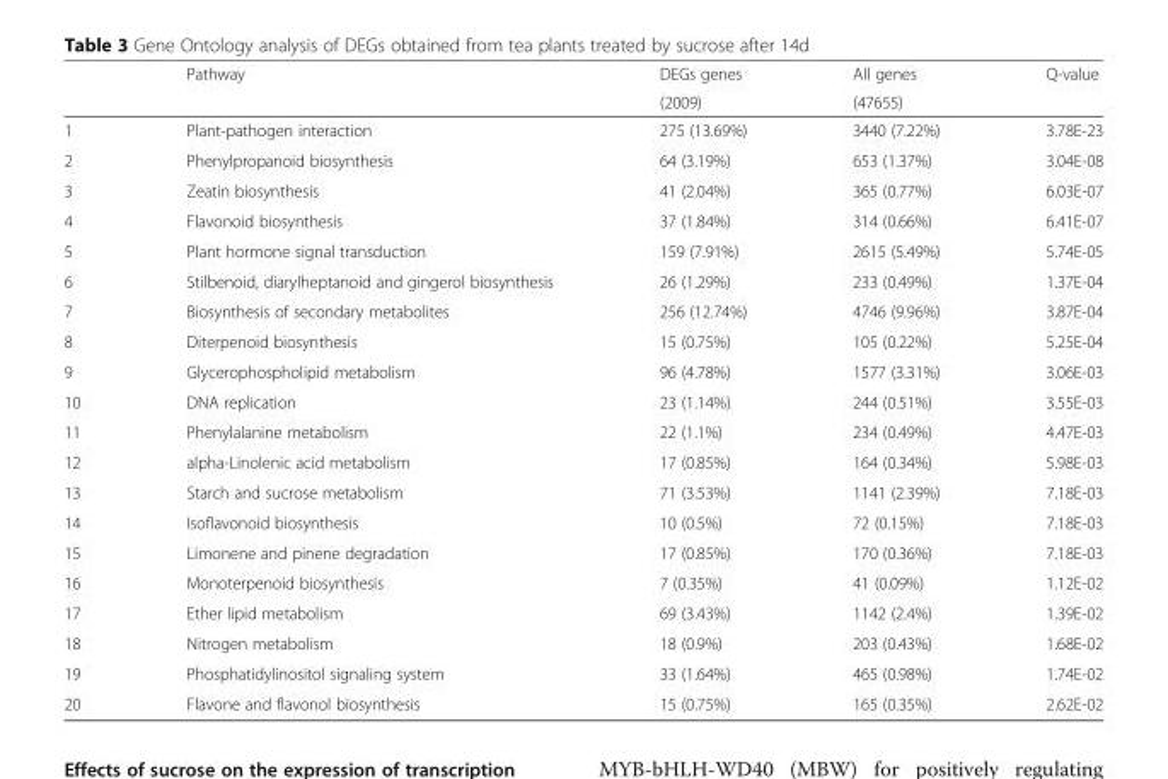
<table><thead><tr><td rowspan="2"></td><td rowspan="2">Pathway</td><td rowspan="2">DEGs genes (2009)</td><td rowspan="2">All genes (47655)</td><td rowspan="2">Q-value</td></tr><tr></tr></thead><tbody><tr><td>1</td><td>Plant-pathogen interaction</td><td>275 (13.69%)</td><td>3440 (7.22%)</td><td>3.78E-23</td></tr><tr><td>2</td><td>Phenylpropanoid biosynthesis</td><td>64 (3.19%)</td><td>653 (1.37%)</td><td>3.04E-08</td></tr><tr><td>3</td><td>Zeatin biosynthesis</td><td>41 (2.04%)</td><td>365 (0.77%)</td><td>6.03E-07</td></tr><tr><td>4</td><td>Flavonoid biosynthesis</td><td>37 (1.84%)</td><td>314 (0.66%)</td><td>6.41E-07</td></tr><tr><td>5</td><td>Plant hormone signal transduction</td><td>159 (7.91%)</td><td>2615 (5.49%)</td><td>5.74E-05</td></tr><tr><td>6</td><td>Stilbenoid, diarylheptanoid and gingerol biosynthesis</td><td>26 (1.29%)</td><td>233 (0.49%)</td><td>1.37E-04</td></tr><tr><td>7</td><td>Biosynthesis of secondary metabolites</td><td>256 (12.74%)</td><td>4746 (9.96%)</td><td>3.87E-04</td></tr><tr><td>8</td><td>Diterpenoid biosynthesis</td><td>15 (0.75%)</td><td>105 (0.22%)</td><td>5.25E-04</td></tr><tr><td>9</td><td>Glycerophospholipid metabolism</td><td>96 (4.78%)</td><td>1577 (3.31%)</td><td>3.06E-03</td></tr><tr><td>10</td><td>DNA replication</td><td>23 (1.14%)</td><td>244 (0.51%)</td><td>3.55E-03</td></tr><tr><td>11</td><td>Phenylalanine metabolism</td><td>22 (1.1%)</td><td>234 (0.49%)</td><td>4.47E-03</td></tr><tr><td>12</td><td>alpha-Linolenic acid metabolism</td><td>17 (0.85%)</td><td>164 (0.34%)</td><td>5.98E-03</td></tr><tr><td>13</td><td>Starch and sucrose metabolism</td><td>71 (3.53%)</td><td>1141 (2.39%)</td><td>7.18E-03</td></tr><tr><td>14</td><td>Isoflavonoid biosynthesis</td><td>10 (0.5%)</td><td>72 (0.15%)</td><td>7.18E-03</td></tr><tr><td>15</td><td>Limonene and pinene degradation</td><td>17 (0.85%)</td><td>170 (0.36%)</td><td>7.18E-03</td></tr><tr><td>16</td><td>Monoterpenoid biosynthesis</td><td>7 (0.35%)</td><td>41 (0.09%)</td><td>1.12E-02</td></tr><tr><td>17</td><td>Ether lipid metabolism</td><td>69 (3.43%)</td><td>1142 (2.4%)</td><td>1.39E-02</td></tr><tr><td>18</td><td>Nitrogen metabolism</td><td>18 (0.9%)</td><td>203 (0.43%)</td><td>1.68E-02</td></tr><tr><td>19</td><td>Phosphatidylinositol signaling system</td><td>33 (1.64%)</td><td>465 (0.98%)</td><td>1.74E-02</td></tr><tr><td>20</td><td>Flavone and flavonol biosynthesis</td><td>15 (0.75%)</td><td>165 (0.35%)</td><td>2.62E-02</td></tr></tbody></table>